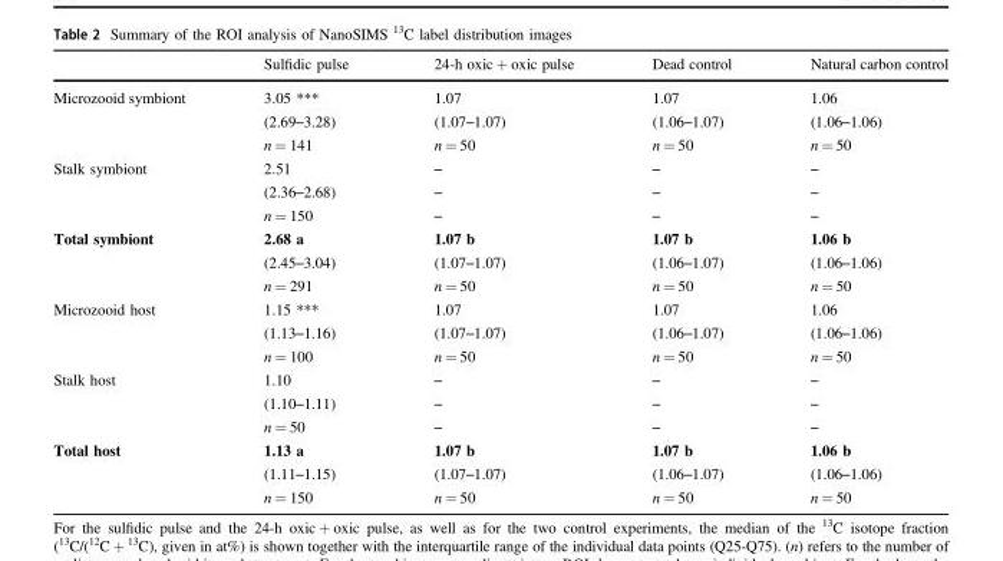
<table><thead><tr><td></td><td>Sulfidic pulse</td><td>24-h oxic + oxic pulse</td><td>Dead control</td><td>Natural carbon control</td></tr></thead><tbody><tr><td rowspan="3">Microzooid symbiont</td><td>3.05 ***</td><td>1.07</td><td>1.07</td><td>1.06</td></tr><tr><td>(2.69–3.28)</td><td>(1.07–1.07)</td><td>(1.06–1.07)</td><td>(1.06–1.06)</td></tr><tr><td>n = 141</td><td>n = 50</td><td>n = 50</td><td>n = 50</td></tr><tr><td rowspan="3">Stalk symbiont</td><td>2.51</td><td>–</td><td>–</td><td>–</td></tr><tr><td>(2.36–2.68)</td><td>–</td><td>–</td><td>–</td></tr><tr><td>n = 150</td><td>–</td><td>–</td><td>–</td></tr><tr><td rowspan="3">Total symbiont</td><td>2.68 a</td><td>1.07 b</td><td>1.07 b</td><td>1.06 b</td></tr><tr><td>(2.45–3.04)</td><td>(1.07–1.07)</td><td>(1.06–1.07)</td><td>(1.06–1.06)</td></tr><tr><td>n = 291</td><td>n = 50</td><td>n = 50</td><td>n = 50</td></tr><tr><td rowspan="3">Microzooid host</td><td>1.15 ***</td><td>1.07</td><td>1.07</td><td>1.06</td></tr><tr><td>(1.13–1.16)</td><td>(1.07–1.07)</td><td>(1.06–1.07)</td><td>(1.06–1.06)</td></tr><tr><td>n = 100</td><td>n = 50</td><td>n = 50</td><td>n = 50</td></tr><tr><td rowspan="3">Stalk host</td><td>1.10</td><td>–</td><td>–</td><td>–</td></tr><tr><td>(1.10–1.11)</td><td>–</td><td>–</td><td>–</td></tr><tr><td>n = 50</td><td>–</td><td>–</td><td>–</td></tr><tr><td rowspan="3">Total host</td><td>1.13 a</td><td>1.07 b</td><td>1.07 b</td><td>1.06 b</td></tr><tr><td>(1.11–1.15)</td><td>(1.07–1.07)</td><td>(1.06–1.07)</td><td>(1.06–1.06)</td></tr><tr><td>n = 150</td><td>n = 50</td><td>n = 50</td><td>n = 50</td></tr></tbody></table>